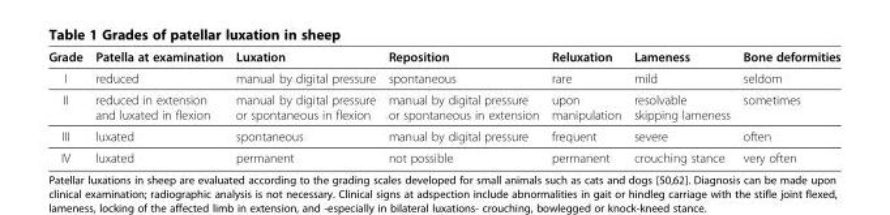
<table><thead><tr><td>Grade</td><td>Patella at examination</td><td>Luxation</td><td>Reposition</td><td>Reluxation</td><td>Lameness</td><td>Bone deformities</td></tr></thead><tbody><tr><td>I</td><td>reduced</td><td>manual by digital pressure</td><td>spontaneous</td><td>rare</td><td>mild</td><td>seldom</td></tr><tr><td>II</td><td>reduced in extension and luxated in flexion</td><td>manual by digital pressure or spontaneous in flexion</td><td>manual by digital pressure or spontaneous in extension</td><td>upon manipulation</td><td>resolvable skipping lameness</td><td>sometimes</td></tr><tr><td>III</td><td>luxated</td><td>spontaneous</td><td>manual by digital pressure</td><td>frequent</td><td>severe</td><td>often</td></tr><tr><td>IV</td><td>luxated</td><td>permanent</td><td>not possible</td><td>permanent</td><td>crouching stance</td><td>very often</td></tr></tbody></table>